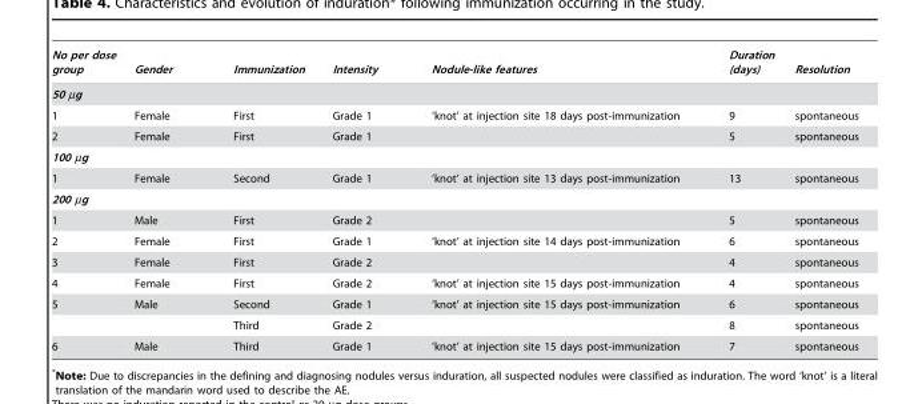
<table><thead><tr><td>No per dose group</td><td>Gender</td><td>Immunization</td><td>Intensity</td><td>Nodule-like features</td><td>Duration (days)</td><td>Resolution</td></tr></thead><tbody><tr><td colspan="7">50 µg</td></tr><tr><td>1</td><td>Female</td><td>First</td><td>Grade 1</td><td>‘knot’ at injection site 18 days post-immunization</td><td>9</td><td>spontaneous</td></tr><tr><td>2</td><td>Female</td><td>First</td><td>Grade 1</td><td></td><td>5</td><td>spontaneous</td></tr><tr><td colspan="7">100 µg</td></tr><tr><td>1</td><td>Female</td><td>Second</td><td>Grade 1</td><td>‘knot’ at injection site 13 days post-immunization</td><td>13</td><td>spontaneous</td></tr><tr><td colspan="7">200 µg</td></tr><tr><td>1</td><td>Male</td><td>First</td><td>Grade 2</td><td></td><td>5</td><td>spontaneous</td></tr><tr><td>2</td><td>Female</td><td>First</td><td>Grade 1</td><td>‘knot’ at injection site 14 days post-immunization</td><td>6</td><td>spontaneous</td></tr><tr><td>3</td><td>Female</td><td>First</td><td>Grade 2</td><td></td><td>4</td><td>spontaneous</td></tr><tr><td>4</td><td>Female</td><td>First</td><td>Grade 2</td><td>‘knot’ at injection site 15 days post-immunization</td><td>4</td><td>spontaneous</td></tr><tr><td rowspan="2">5</td><td>Male</td><td>Second</td><td>Grade 1</td><td>‘knot’ at injection site 15 days post-immunization</td><td>6</td><td>spontaneous</td></tr><tr><td></td><td>Third</td><td>Grade 2</td><td></td><td>8</td><td>spontaneous</td></tr><tr><td>6</td><td>Male</td><td>Third</td><td>Grade 1</td><td>‘knot’ at injection site 15 days post-immunization</td><td>7</td><td>spontaneous</td></tr></tbody></table>